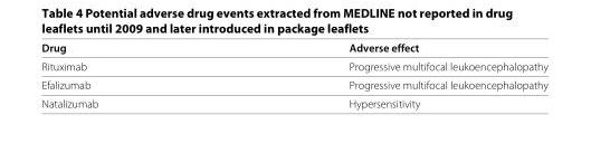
<table><thead><tr><td>Drug</td><td>Adverse effect</td></tr></thead><tbody><tr><td>Rituximab</td><td>Progressive multifocal leukoencephalopathy</td></tr><tr><td>Efalizumab</td><td>Progressive multifocal leukoencephalopathy</td></tr><tr><td>Natalizumab</td><td>Hypersensitivity</td></tr></tbody></table>